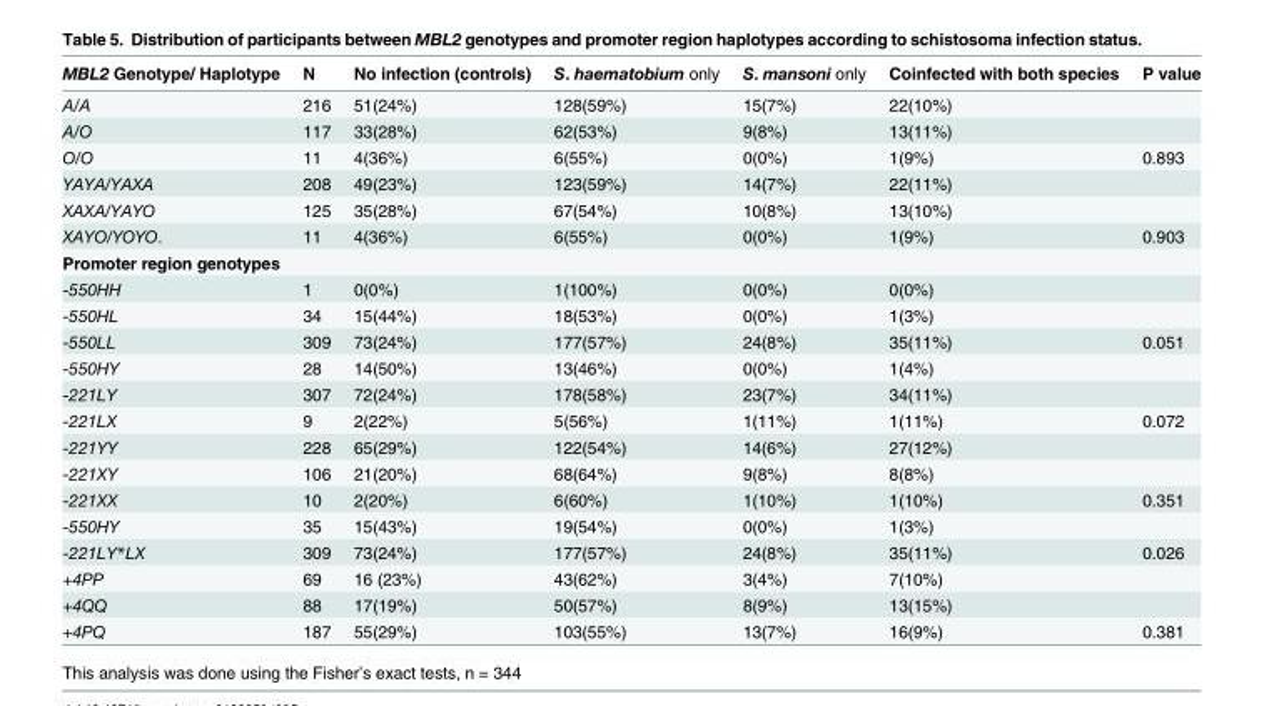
<table><thead><tr><td>MBL2 Genotype/ Haplotype</td><td>N</td><td>No infection (controls)</td><td>S. haematobium only</td><td>S. mansoni only</td><td>Coinfected with both species</td><td>P value</td></tr></thead><tbody><tr><td>A/A</td><td>216</td><td>51(24%)</td><td>128(59%)</td><td>15(7%)</td><td>22(10%)</td><td></td></tr><tr><td>A/O</td><td>117</td><td>33(28%)</td><td>62(53%)</td><td>9(8%)</td><td>13(11%)</td><td></td></tr><tr><td>O/O</td><td>11</td><td>4(36%)</td><td>6(55%)</td><td>0(0%)</td><td>1(9%)</td><td>0.893</td></tr><tr><td>YAYA/YAXA</td><td>208</td><td>49(23%)</td><td>123(59%)</td><td>14(7%)</td><td>22(11%)</td><td></td></tr><tr><td>XAXA/YAYO</td><td>125</td><td>35(28%)</td><td>67(54%)</td><td>10(8%)</td><td>13(10%)</td><td></td></tr><tr><td>XAYO/YOYO.</td><td>11</td><td>4(36%)</td><td>6(55%)</td><td>0(0%)</td><td>1(9%)</td><td>0.903</td></tr><tr><td colspan="7">Promoter region genotypes</td></tr><tr><td>-550HH</td><td>1</td><td>0(0%)</td><td>1(100%)</td><td>0(0%)</td><td>0(0%)</td><td></td></tr><tr><td>-550HL</td><td>34</td><td>15(44%)</td><td>18(53%)</td><td>0(0%)</td><td>1(3%)</td><td></td></tr><tr><td>-550LL</td><td>309</td><td>73(24%)</td><td>177(57%)</td><td>24(8%)</td><td>35(11%)</td><td>0.051</td></tr><tr><td>-550HY</td><td>28</td><td>14(50%)</td><td>13(46%)</td><td>0(0%)</td><td>1(4%)</td><td></td></tr><tr><td>-221LY</td><td>307</td><td>72(24%)</td><td>178(58%)</td><td>23(7%)</td><td>34(11%)</td><td></td></tr><tr><td>-221LX</td><td>9</td><td>2(22%)</td><td>5(56%)</td><td>1(11%)</td><td>1(11%)</td><td>0.072</td></tr><tr><td>-221YY</td><td>228</td><td>65(29%)</td><td>122(54%)</td><td>14(6%)</td><td>27(12%)</td><td></td></tr><tr><td>-221XY</td><td>106</td><td>21(20%)</td><td>68(64%)</td><td>9(8%)</td><td>8(8%)</td><td></td></tr><tr><td>-221XX</td><td>10</td><td>2(20%)</td><td>6(60%)</td><td>1(10%)</td><td>1(10%)</td><td>0.351</td></tr><tr><td>-550HY</td><td>35</td><td>15(43%)</td><td>19(54%)</td><td>0(0%)</td><td>1(3%)</td><td></td></tr><tr><td>-221LY*LX</td><td>309</td><td>73(24%)</td><td>177(57%)</td><td>24(8%)</td><td>35(11%)</td><td>0.026</td></tr><tr><td>+4PP</td><td>69</td><td>16 (23%)</td><td>43(62%)</td><td>3(4%)</td><td>7(10%)</td><td></td></tr><tr><td>+4QQ</td><td>88</td><td>17(19%)</td><td>50(57%)</td><td>8(9%)</td><td>13(15%)</td><td></td></tr><tr><td>+4PQ</td><td>187</td><td>55(29%)</td><td>103(55%)</td><td>13(7%)</td><td>16(9%)</td><td>0.381</td></tr></tbody></table>